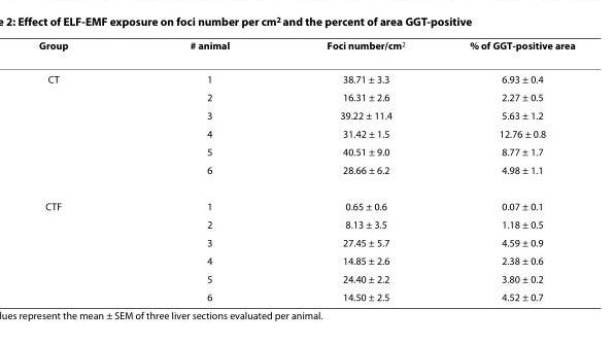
<table><thead><tr><td>Group</td><td># animal</td><td>Foci number/cm<sup>2</sup></td><td>% of GGT-positive area</td></tr></thead><tbody><tr><td rowspan="6">CT</td><td>1</td><td>38.71 ± 3.3</td><td>6.93 ± 0.4</td></tr><tr><td>2</td><td>16.31 ± 2.6</td><td>2.27 ± 0.5</td></tr><tr><td>3</td><td>39.22 ± 11.4</td><td>5.63 ± 1.2</td></tr><tr><td>4</td><td>31.42 ± 1.5</td><td>12.76 ± 0.8</td></tr><tr><td>5</td><td>40.51 ± 9.0</td><td>8.77 ± 1.7</td></tr><tr><td>6</td><td>28.66 ± 6.2</td><td>4.98 ± 1.1</td></tr><tr><td rowspan="6">CTF</td><td>1</td><td>0.65 ± 0.6</td><td>0.07 ± 0.1</td></tr><tr><td>2</td><td>8.13 ± 3.5</td><td>1.18 ± 0.5</td></tr><tr><td>3</td><td>27.45 ± 5.7</td><td>4.59 ± 0.9</td></tr><tr><td>4</td><td>14.85 ± 2.6</td><td>2.38 ± 0.6</td></tr><tr><td>5</td><td>24.40 ± 2.2</td><td>3.80 ± 0.2</td></tr><tr><td>6</td><td>14.50 ± 2.5</td><td>4.52 ± 0.7</td></tr></tbody></table>